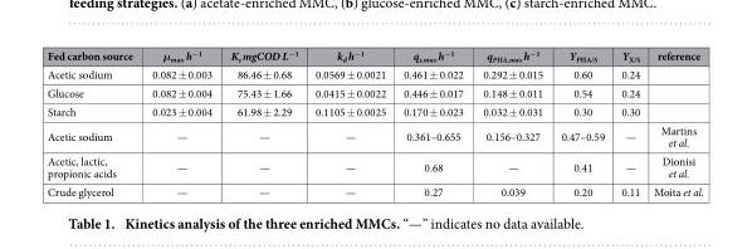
<table><thead><tr><td>Fed carbon source</td><td>μ<sub>max</sub> h<sup>−1</sup></td><td>K<sub>s</sub> mgCOD L<sup>−1</sup></td><td>k<sub>d</sub> h<sup>−1</sup></td><td>q<sub>s,max</sub> h<sup>−1</sup></td><td>q<sub>PHA,max</sub> h<sup>−1</sup></td><td>Y<sub>PHA/S</sub></td><td>Y<sub>X/S</sub></td><td>reference</td></tr></thead><tbody><tr><td>Acetic sodium</td><td>0.082 ± 0.003</td><td>86.46 ± 0.68</td><td>0.0569 ± 0.0021</td><td>0.461 ± 0.022</td><td>0.292 ± 0.015</td><td>0.60</td><td>0.24</td><td></td></tr><tr><td>Glucose</td><td>0.082 ± 0.004</td><td>75.43 ± 1.66</td><td>0.0415 ± 0.0022</td><td>0.446 ± 0.017</td><td>0.148 ± 0.011</td><td>0.54</td><td>0.24</td><td></td></tr><tr><td>Starch</td><td>0.023 ± 0.004</td><td>61.98 ± 2.29</td><td>0.1105 ± 0.0025</td><td>0.170 ± 0.023</td><td>0.032 ± 0.031</td><td>0.30</td><td>0.30</td><td></td></tr><tr><td>Acetic sodium</td><td>—</td><td>—</td><td>—</td><td>0.361–0.655</td><td>0.156–0.327</td><td>0.47–0.59</td><td>—</td><td>Martins et al.</td></tr><tr><td>Acetic, lactic, propionic acids</td><td>—</td><td>—</td><td>—</td><td>0.68</td><td>—</td><td>0.41</td><td>—</td><td>Dionisi et al.</td></tr><tr><td>Crude glycerol</td><td>—</td><td>—</td><td>—</td><td>0.27</td><td>0.039</td><td>0.20</td><td>0.11</td><td>Moita et al.</td></tr></tbody></table>